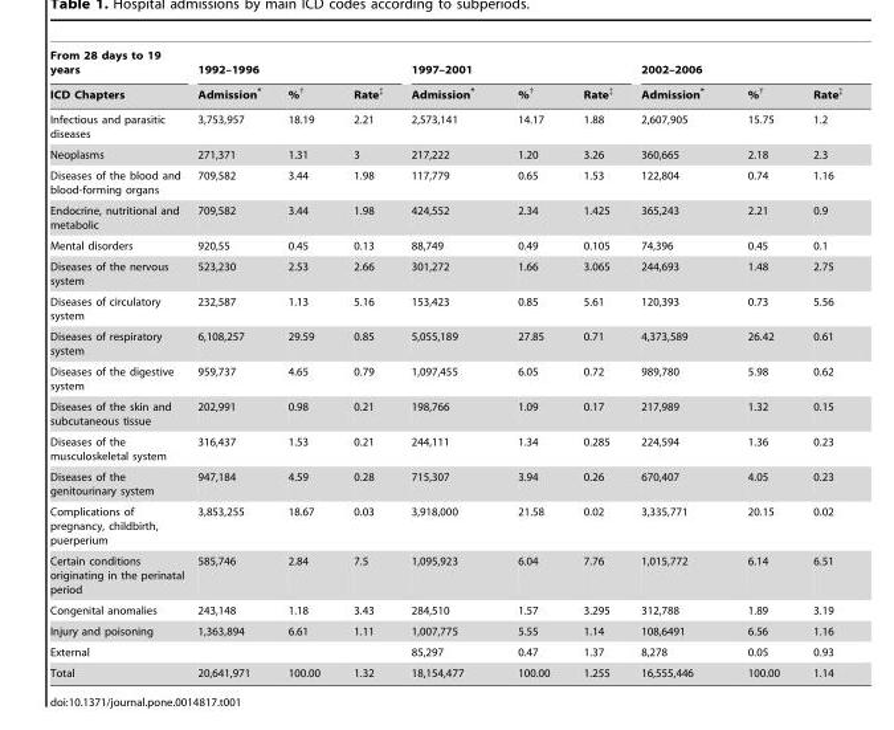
<table><thead><tr><td rowspan="2">From 28 days to 19 years ICD Chapters</td><td colspan="3">1992–1996</td><td colspan="3">1997–2001</td><td colspan="3">2002–2006</td></tr><tr><td>Admission*</td><td>%<sup>†</sup></td><td>Rate<sup>‡</sup></td><td>Admission*</td><td>%<sup>†</sup></td><td>Rate<sup>‡</sup></td><td>Admission*</td><td>%<sup>†</sup></td><td>Rate<sup>‡</sup></td></tr></thead><tbody><tr><td>Infectious and parasitic diseases</td><td>3,753,957</td><td>18.19</td><td>2.21</td><td>2,573,141</td><td>14.17</td><td>1.88</td><td>2,607,905</td><td>15.75</td><td>1.2</td></tr><tr><td>Neoplasms</td><td>271,371</td><td>1.31</td><td>3</td><td>217,222</td><td>1.20</td><td>3.26</td><td>360,665</td><td>2.18</td><td>2.3</td></tr><tr><td>Diseases of the blood and blood-forming organs</td><td>709,582</td><td>3.44</td><td>1.98</td><td>117,779</td><td>0.65</td><td>1.53</td><td>122,804</td><td>0.74</td><td>1.16</td></tr><tr><td>Endocrine, nutritional and metabolic</td><td>709,582</td><td>3.44</td><td>1.98</td><td>424,552</td><td>2.34</td><td>1.425</td><td>365,243</td><td>2.21</td><td>0.9</td></tr><tr><td>Mental disorders</td><td>920,55</td><td>0.45</td><td>0.13</td><td>88,749</td><td>0.49</td><td>0.105</td><td>74,396</td><td>0.45</td><td>0.1</td></tr><tr><td>Diseases of the nervous system</td><td>523,230</td><td>2.53</td><td>2.66</td><td>301,272</td><td>1.66</td><td>3.065</td><td>244,693</td><td>1.48</td><td>2.75</td></tr><tr><td>Diseases of circulatory system</td><td>232,587</td><td>1.13</td><td>5.16</td><td>153,423</td><td>0.85</td><td>5.61</td><td>120,393</td><td>0.73</td><td>5.56</td></tr><tr><td>Diseases of respiratory system</td><td>6,108,257</td><td>29.59</td><td>0.85</td><td>5,055,189</td><td>27.85</td><td>0.71</td><td>4,373,589</td><td>26.42</td><td>0.61</td></tr><tr><td>Diseases of the digestive system</td><td>959,737</td><td>4.65</td><td>0.79</td><td>1,097,455</td><td>6.05</td><td>0.72</td><td>989,780</td><td>5.98</td><td>0.62</td></tr><tr><td>Diseases of the skin and subcutaneous tissue</td><td>202,991</td><td>0.98</td><td>0.21</td><td>198,766</td><td>1.09</td><td>0.17</td><td>217,989</td><td>1.32</td><td>0.15</td></tr><tr><td>Diseases of the musculoskeletal system</td><td>316,437</td><td>1.53</td><td>0.21</td><td>244,111</td><td>1.34</td><td>0.285</td><td>224,594</td><td>1.36</td><td>0.23</td></tr><tr><td>Diseases of the genitourinary system</td><td>947,184</td><td>4.59</td><td>0.28</td><td>715,307</td><td>3.94</td><td>0.26</td><td>670,407</td><td>4.05</td><td>0.23</td></tr><tr><td>Complications of pregnancy, childbirth, puerperium</td><td>3,853,255</td><td>18.67</td><td>0.03</td><td>3,918,000</td><td>21.58</td><td>0.02</td><td>3,335,771</td><td>20.15</td><td>0.02</td></tr><tr><td>Certain conditions originating in the perinatal period</td><td>585,746</td><td>2.84</td><td>7.5</td><td>1,095,923</td><td>6.04</td><td>7.76</td><td>1,015,772</td><td>6.14</td><td>6.51</td></tr><tr><td>Congenital anomalies</td><td>243,148</td><td>1.18</td><td>3.43</td><td>284,510</td><td>1.57</td><td>3.295</td><td>312,788</td><td>1.89</td><td>3.19</td></tr><tr><td>Injury and poisoning</td><td>1,363,894</td><td>6.61</td><td>1.11</td><td>1,007,775</td><td>5.55</td><td>1.14</td><td>108,6491</td><td>6.56</td><td>1.16</td></tr><tr><td>External</td><td></td><td></td><td></td><td>85,297</td><td>0.47</td><td>1.37</td><td>8,278</td><td>0.05</td><td>0.93</td></tr><tr><td>Total</td><td>20,641,971</td><td>100.00</td><td>1.32</td><td>18,154,477</td><td>100.00</td><td>1.255</td><td>16,555,446</td><td>100.00</td><td>1.14</td></tr></tbody></table>